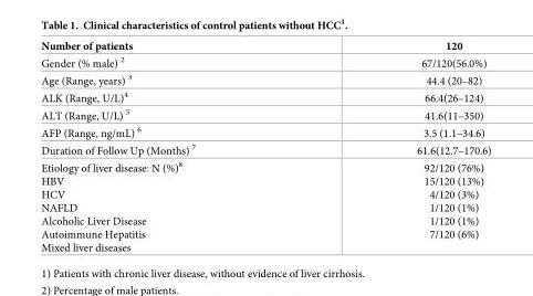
<table><thead><tr><td>Number of patients</td><td>120</td></tr></thead><tbody><tr><td>Gender (% male) <sup>2</sup></td><td>67/120(56.0%)</td></tr><tr><td>Age (Range, years) <sup>3</sup></td><td>44.4 (20–82)</td></tr><tr><td>ALK (Range, U/L)<sup>4</sup></td><td>66.4(26–124)</td></tr><tr><td>ALT (Range, U/L) <sup>5</sup></td><td>41.6(11–350)</td></tr><tr><td>AFP (Range, ng/mL) <sup>6</sup></td><td>3.5 (1.1–34.6)</td></tr><tr><td>Duration of Follow Up (Months) <sup>7</sup></td><td>61.6(12.7–170.6)</td></tr><tr><td>Etiology of liver disease: N (%)<sup>8</sup> HBV HCV NAFLD Alcoholic Liver Disease Autoimmune Hepatitis Mixed liver diseases</td><td>92/120 (76%) 15/120 (13%) 4/120 (3%) 1/120 (1%) 1/120 (1%) 7/120 (6%)</td></tr></tbody></table>